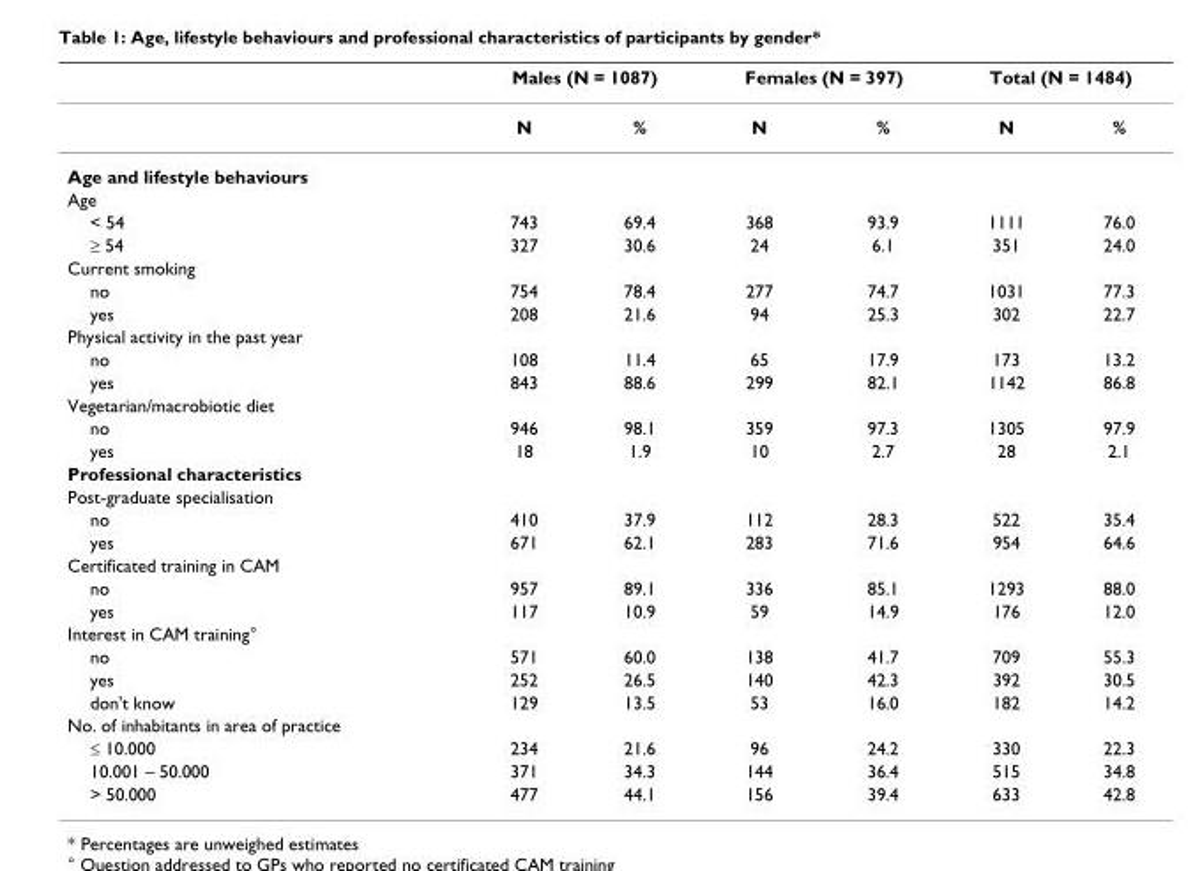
<table><thead><tr><td rowspan="2"></td><td colspan="2">Males (N = 1087)</td><td colspan="2">Females (N = 397)</td><td colspan="2">Total (N = 1484)</td></tr><tr><td>N</td><td>%</td><td>N</td><td>%</td><td>N</td><td>%</td></tr></thead><tbody><tr><td colspan="7">Age and lifestyle behaviours</td></tr><tr><td colspan="7">Age</td></tr><tr><td>&lt; 54</td><td>743</td><td>69.4</td><td>368</td><td>93.9</td><td>1111</td><td>76.0</td></tr><tr><td>≥ 54</td><td>327</td><td>30.6</td><td>24</td><td>6.1</td><td>351</td><td>24.0</td></tr><tr><td colspan="7">Current smoking</td></tr><tr><td>no</td><td>754</td><td>78.4</td><td>277</td><td>74.7</td><td>1031</td><td>77.3</td></tr><tr><td>yes</td><td>208</td><td>21.6</td><td>94</td><td>25.3</td><td>302</td><td>22.7</td></tr><tr><td colspan="7">Physical activity in the past year</td></tr><tr><td>no</td><td>108</td><td>11.4</td><td>65</td><td>17.9</td><td>173</td><td>13.2</td></tr><tr><td>yes</td><td>843</td><td>88.6</td><td>299</td><td>82.1</td><td>1142</td><td>86.8</td></tr><tr><td colspan="7">Vegetarian/macrobiotic diet</td></tr><tr><td>no</td><td>946</td><td>98.1</td><td>359</td><td>97.3</td><td>1305</td><td>97.9</td></tr><tr><td>yes</td><td>18</td><td>1.9</td><td>10</td><td>2.7</td><td>28</td><td>2.1</td></tr><tr><td colspan="7">Professional characteristics</td></tr><tr><td colspan="7">Post-graduate specialisation</td></tr><tr><td>no</td><td>410</td><td>37.9</td><td>112</td><td>28.3</td><td>522</td><td>35.4</td></tr><tr><td>yes</td><td>671</td><td>62.1</td><td>283</td><td>71.6</td><td>954</td><td>64.6</td></tr><tr><td colspan="7">Certificated training in CAM</td></tr><tr><td>no</td><td>957</td><td>89.1</td><td>336</td><td>85.1</td><td>1293</td><td>88.0</td></tr><tr><td>yes</td><td>117</td><td>10.9</td><td>59</td><td>14.9</td><td>176</td><td>12.0</td></tr><tr><td colspan="7">Interest in CAM training°</td></tr><tr><td>no</td><td>571</td><td>60.0</td><td>138</td><td>41.7</td><td>709</td><td>55.3</td></tr><tr><td>yes</td><td>252</td><td>26.5</td><td>140</td><td>42.3</td><td>392</td><td>30.5</td></tr><tr><td>don&#x27;t know</td><td>129</td><td>13.5</td><td>53</td><td>16.0</td><td>182</td><td>14.2</td></tr><tr><td colspan="7">No. of inhabitants in area of practice</td></tr><tr><td>≤ 10.000</td><td>234</td><td>21.6</td><td>96</td><td>24.2</td><td>330</td><td>22.3</td></tr><tr><td>10.001 – 50.000</td><td>371</td><td>34.3</td><td>144</td><td>36.4</td><td>515</td><td>34.8</td></tr><tr><td>&gt; 50.000</td><td>477</td><td>44.1</td><td>156</td><td>39.4</td><td>633</td><td>42.8</td></tr></tbody></table>